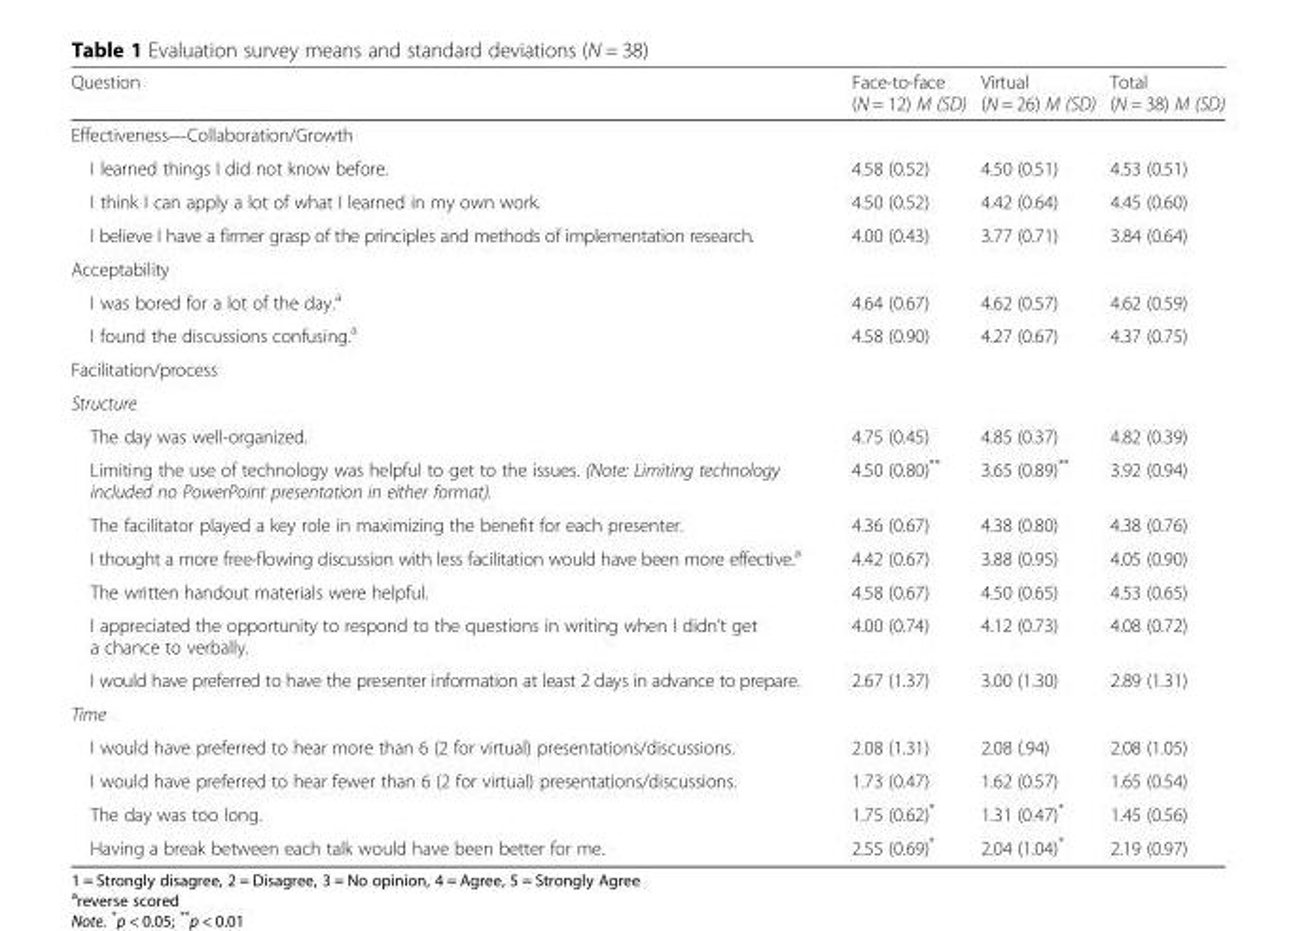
<table><thead><tr><td>Question</td><td>Face-to-face (N = 12) M (SD)</td><td>Virtual (N = 26) M (SD)</td><td>Total (N = 38) M (SD)</td></tr></thead><tbody><tr><td colspan="4">Effectiveness—Collaboration/Growth</td></tr><tr><td>I learned things I did not know before.</td><td>4.58 (0.52)</td><td>4.50 (0.51)</td><td>4.53 (0.51)</td></tr><tr><td>I think I can apply a lot of what I learned in my own work.</td><td>4.50 (0.52)</td><td>4.42 (0.64)</td><td>4.45 (0.60)</td></tr><tr><td>I believe I have a firmer grasp of the principles and methods of implementation research.</td><td>4.00 (0.43)</td><td>3.77 (0.71)</td><td>3.84 (0.64)</td></tr><tr><td colspan="4">Acceptability</td></tr><tr><td>I was bored for a lot of the day.<sup>a</sup></td><td>4.64 (0.67)</td><td>4.62 (0.57)</td><td>4.62 (0.59)</td></tr><tr><td>I found the discussions confusing.<sup>a</sup></td><td>4.58 (0.90)</td><td>4.27 (0.67)</td><td>4.37 (0.75)</td></tr><tr><td colspan="4">Facilitation/process</td></tr><tr><td colspan="4">Structure</td></tr><tr><td>The day was well-organized.</td><td>4.75 (0.45)</td><td>4.85 (0.37)</td><td>4.82 (0.39)</td></tr><tr><td>Limiting the use of technology was helpful to get to the issues. (Note: Limiting technology included no PowerPoint presentation in either format).</td><td>4.50 (0.80)**</td><td>3.65 (0.89)**</td><td>3.92 (0.94)</td></tr><tr><td>The facilitator played a key role in maximizing the benefit for each presenter.</td><td>4.36 (0.67)</td><td>4.38 (0.80)</td><td>4.38 (0.76)</td></tr><tr><td>I thought a more free-flowing discussion with less facilitation would have been more effective.<sup>a</sup></td><td>4.42 (0.67)</td><td>3.88 (0.95)</td><td>4.05 (0.90)</td></tr><tr><td>The written handout materials were helpful.</td><td>4.58 (0.67)</td><td>4.50 (0.65)</td><td>4.53 (0.65)</td></tr><tr><td>I appreciated the opportunity to respond to the questions in writing when I didn’t get a chance to verbally.</td><td>4.00 (0.74)</td><td>4.12 (0.73)</td><td>4.08 (0.72)</td></tr><tr><td>I would have preferred to have the presenter information at least 2 days in advance to prepare.</td><td>2.67 (1.37)</td><td>3.00 (1.30)</td><td>2.89 (1.31)</td></tr><tr><td colspan="4">Time</td></tr><tr><td>I would have preferred to hear more than 6 (2 for virtual) presentations/discussions.</td><td>2.08 (1.31)</td><td>2.08 (.94)</td><td>2.08 (1.05)</td></tr><tr><td>I would have preferred to hear fewer than 6 (2 for virtual) presentations/discussions.</td><td>1.73 (0.47)</td><td>1.62 (0.57)</td><td>1.65 (0.54)</td></tr><tr><td>The day was too long.</td><td>1.75 (0.62)*</td><td>1.31 (0.47)*</td><td>1.45 (0.56)</td></tr><tr><td>Having a break between each talk would have been better for me.</td><td>2.55 (0.69)*</td><td>2.04 (1.04)*</td><td>2.19 (0.97)</td></tr></tbody></table>